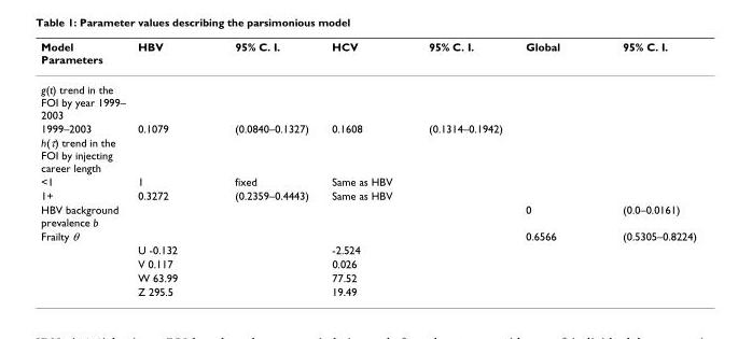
<table><thead><tr><td>Model Parameters</td><td>HBV</td><td>95% C. I.</td><td>HCV</td><td>95% C. I.</td><td>Global</td><td>95% C. I.</td></tr></thead><tbody><tr><td colspan="7">g(t) trend in the FOI by year 1999– 2003</td></tr><tr><td>1999–2003</td><td>0.1079</td><td>(0.0840–0.1327)</td><td>0.1608</td><td>(0.1314–0.1942)</td><td></td><td></td></tr><tr><td colspan="7">h(τ) trend in the FOI by injecting career length</td></tr><tr><td>&lt;1</td><td>1</td><td>fixed</td><td colspan="2">Same as HBV</td><td></td><td></td></tr><tr><td>1+</td><td>0.3272</td><td>(0.2359–0.4443)</td><td colspan="2">Same as HBV</td><td></td><td></td></tr><tr><td>HBV background prevalence b</td><td></td><td></td><td></td><td></td><td>0</td><td>(0.0–0.0161)</td></tr><tr><td rowspan="5">Frailty θ</td><td></td><td></td><td></td><td></td><td>0.6566</td><td>(0.5305–0.8224)</td></tr><tr><td>U -0.132</td><td></td><td>-2.524</td><td></td><td></td><td></td></tr><tr><td>V 0.117</td><td></td><td>0.026</td><td></td><td></td><td></td></tr><tr><td>W 63.99</td><td></td><td>77.52</td><td></td><td></td><td></td></tr><tr><td>Z 295.5</td><td></td><td>19.49</td><td></td><td></td><td></td></tr></tbody></table>